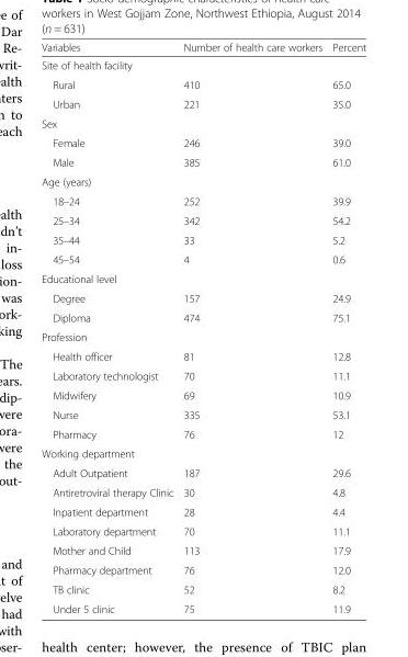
<table><thead><tr><td>Variables</td><td>Number of health care workers</td><td>Percent</td></tr></thead><tbody><tr><td colspan="3">Site of health facility</td></tr><tr><td>Rural</td><td>410</td><td>65.0</td></tr><tr><td>Urban</td><td>221</td><td>35.0</td></tr><tr><td colspan="3">Sex</td></tr><tr><td>Female</td><td>246</td><td>39.0</td></tr><tr><td>Male</td><td>385</td><td>61.0</td></tr><tr><td colspan="3">Age (years)</td></tr><tr><td>18–24</td><td>252</td><td>39.9</td></tr><tr><td>25–34</td><td>342</td><td>54.2</td></tr><tr><td>35–44</td><td>33</td><td>5.2</td></tr><tr><td>45–54</td><td>4</td><td>0.6</td></tr><tr><td colspan="3">Educational level</td></tr><tr><td>Degree</td><td>157</td><td>24.9</td></tr><tr><td>Diploma</td><td>474</td><td>75.1</td></tr><tr><td colspan="3">Profession</td></tr><tr><td>Health officer</td><td>81</td><td>12.8</td></tr><tr><td>Laboratory technologist</td><td>70</td><td>11.1</td></tr><tr><td>Midwifery</td><td>69</td><td>10.9</td></tr><tr><td>Nurse</td><td>335</td><td>53.1</td></tr><tr><td>Pharmacy</td><td>76</td><td>12</td></tr><tr><td colspan="3">Working department</td></tr><tr><td>Adult Outpatient</td><td>187</td><td>29.6</td></tr><tr><td>Antiretroviral therapy Clinic</td><td>30</td><td>4.8</td></tr><tr><td>Inpatient department</td><td>28</td><td>4.4</td></tr><tr><td>Laboratory department</td><td>70</td><td>11.1</td></tr><tr><td>Mother and Child</td><td>113</td><td>17.9</td></tr><tr><td>Pharmacy department</td><td>76</td><td>12.0</td></tr><tr><td>TB clinic</td><td>52</td><td>8.2</td></tr><tr><td>Under 5 clinic</td><td>75</td><td>11.9</td></tr></tbody></table>